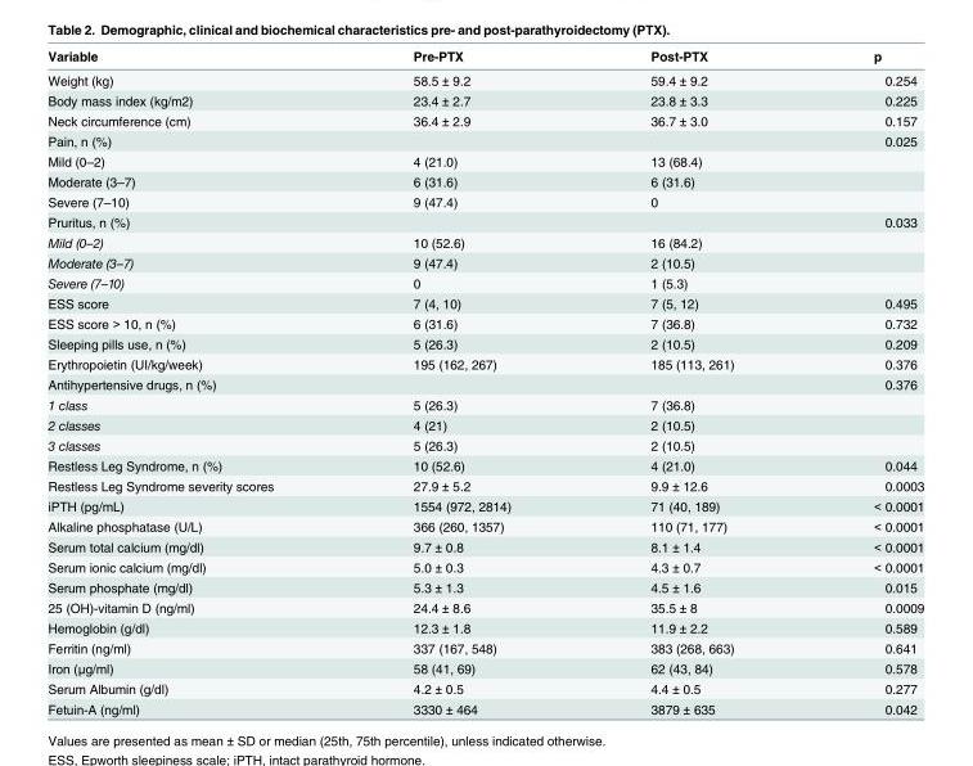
<table><thead><tr><td>Variable</td><td>Pre-PTX</td><td>Post-PTX</td><td>p</td></tr></thead><tbody><tr><td>Weight (kg)</td><td>58.5 ± 9.2</td><td>59.4 ± 9.2</td><td>0.254</td></tr><tr><td>Body mass index (kg/m2)</td><td>23.4 ± 2.7</td><td>23.8 ± 3.3</td><td>0.225</td></tr><tr><td>Neck circumference (cm)</td><td>36.4 ± 2.9</td><td>36.7 ± 3.0</td><td>0.157</td></tr><tr><td>Pain, n (%)</td><td></td><td></td><td>0.025</td></tr><tr><td>Mild (0–2)</td><td>4 (21.0)</td><td>13 (68.4)</td><td></td></tr><tr><td>Moderate (3–7)</td><td>6 (31.6)</td><td>6 (31.6)</td><td></td></tr><tr><td>Severe (7–10)</td><td>9 (47.4)</td><td>0</td><td></td></tr><tr><td>Pruritus, n (%)</td><td></td><td></td><td>0.033</td></tr><tr><td>Mild (0–2)</td><td>10 (52.6)</td><td>16 (84.2)</td><td></td></tr><tr><td>Moderate (3–7)</td><td>9 (47.4)</td><td>2 (10.5)</td><td></td></tr><tr><td>Severe (7–10)</td><td>0</td><td>1 (5.3)</td><td></td></tr><tr><td>ESS score</td><td>7 (4, 10)</td><td>7 (5, 12)</td><td>0.495</td></tr><tr><td>ESS score &gt; 10, n (%)</td><td>6 (31.6)</td><td>7 (36.8)</td><td>0.732</td></tr><tr><td>Sleeping pills use, n (%)</td><td>5 (26.3)</td><td>2 (10.5)</td><td>0.209</td></tr><tr><td>Erythropoietin (UI/kg/week)</td><td>195 (162, 267)</td><td>185 (113, 261)</td><td>0.376</td></tr><tr><td>Antihypertensive drugs, n (%)</td><td></td><td></td><td>0.376</td></tr><tr><td>1 class</td><td>5 (26.3)</td><td>7 (36.8)</td><td></td></tr><tr><td>2 classes</td><td>4 (21)</td><td>2 (10.5)</td><td></td></tr><tr><td>3 classes</td><td>5 (26.3)</td><td>2 (10.5)</td><td></td></tr><tr><td>Restless Leg Syndrome, n (%)</td><td>10 (52.6)</td><td>4 (21.0)</td><td>0.044</td></tr><tr><td>Restless Leg Syndrome severity scores</td><td>27.9 ± 5.2</td><td>9.9 ± 12.6</td><td>0.0003</td></tr><tr><td>iPTH (pg/mL)</td><td>1554 (972, 2814)</td><td>71 (40, 189)</td><td>&lt; 0.0001</td></tr><tr><td>Alkaline phosphatase (U/L)</td><td>366 (260, 1357)</td><td>110 (71, 177)</td><td>&lt; 0.0001</td></tr><tr><td>Serum total calcium (mg/dl)</td><td>9.7 ± 0.8</td><td>8.1 ± 1.4</td><td>&lt; 0.0001</td></tr><tr><td>Serum ionic calcium (mg/dl)</td><td>5.0 ± 0.3</td><td>4.3 ± 0.7</td><td>&lt; 0.0001</td></tr><tr><td>Serum phosphate (mg/dl)</td><td>5.3 ± 1.3</td><td>4.5 ± 1.6</td><td>0.015</td></tr><tr><td>25 (OH)-vitamin D (ng/ml)</td><td>24.4 ± 8.6</td><td>35.5 ± 8</td><td>0.0009</td></tr><tr><td>Hemoglobin (g/dl)</td><td>12.3 ± 1.8</td><td>11.9 ± 2.2</td><td>0.589</td></tr><tr><td>Ferritin (ng/ml)</td><td>337 (167, 548)</td><td>383 (268, 663)</td><td>0.641</td></tr><tr><td>Iron (μg/ml)</td><td>58 (41, 69)</td><td>62 (43, 84)</td><td>0.578</td></tr><tr><td>Serum Albumin (g/dl)</td><td>4.2 ± 0.5</td><td>4.4 ± 0.5</td><td>0.277</td></tr><tr><td>Fetuin-A (ng/ml)</td><td>3330 ± 464</td><td>3879 ± 635</td><td>0.042</td></tr></tbody></table>